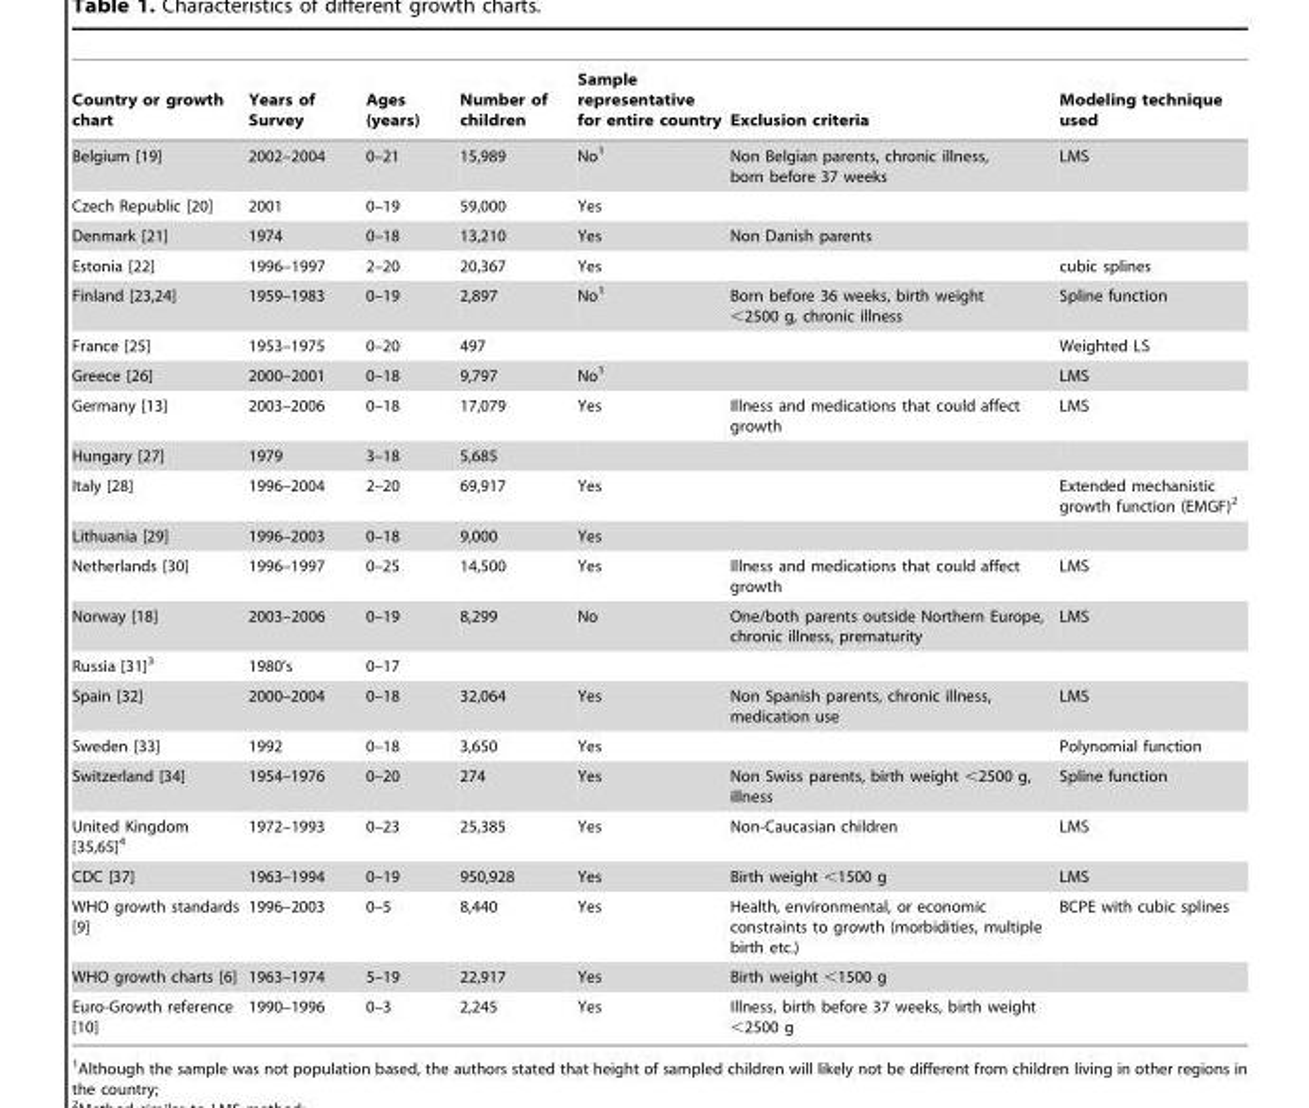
<table><thead><tr><td>Country or growth chart</td><td>Years of Survey</td><td>Ages (years)</td><td>Number of children</td><td>Sample representative for entire country</td><td>Exclusion criteria</td><td>Modeling technique used</td></tr></thead><tbody><tr><td>Belgium [19]</td><td>2002–2004</td><td>0–21</td><td>15,989</td><td>No<sup>1</sup></td><td>Non Belgian parents, chronic illness, born before 37 weeks</td><td>LMS</td></tr><tr><td>Czech Republic [20]</td><td>2001</td><td>0–19</td><td>59,000</td><td>Yes</td><td></td><td></td></tr><tr><td>Denmark [21]</td><td>1974</td><td>0–18</td><td>13,210</td><td>Yes</td><td>Non Danish parents</td><td></td></tr><tr><td>Estonia [22]</td><td>1996–1997</td><td>2–20</td><td>20,367</td><td>Yes</td><td></td><td>cubic splines</td></tr><tr><td>Finland [23,24]</td><td>1959–1983</td><td>0–19</td><td>2,897</td><td>No<sup>1</sup></td><td>Born before 36 weeks, birth weight &lt;2500 g, chronic illness</td><td>Spline function</td></tr><tr><td>France [25]</td><td>1953–1975</td><td>0–20</td><td>497</td><td></td><td></td><td>Weighted LS</td></tr><tr><td>Greece [26]</td><td>2000–2001</td><td>0–18</td><td>9,797</td><td>No<sup>1</sup></td><td></td><td>LMS</td></tr><tr><td>Germany [13]</td><td>2003–2006</td><td>0–18</td><td>17,079</td><td>Yes</td><td>Illness and medications that could affect growth</td><td>LMS</td></tr><tr><td>Hungary [27]</td><td>1979</td><td>3–18</td><td>5,685</td><td></td><td></td><td></td></tr><tr><td>Italy [28]</td><td>1996–2004</td><td>2–20</td><td>69,917</td><td>Yes</td><td></td><td>Extended mechanistic growth function (EMGF)<sup>2</sup></td></tr><tr><td>Lithuania [29]</td><td>1996–2003</td><td>0–18</td><td>9,000</td><td>Yes</td><td></td><td></td></tr><tr><td>Netherlands [30]</td><td>1996–1997</td><td>0–25</td><td>14,500</td><td>Yes</td><td>Illness and medications that could affect growth</td><td>LMS</td></tr><tr><td>Norway [18]</td><td>2003–2006</td><td>0–19</td><td>8,299</td><td>No</td><td>One/both parents outside Northern Europe, chronic illness, prematurity</td><td>LMS</td></tr><tr><td>Russia [31]3</td><td>1980’s</td><td>0–17</td><td></td><td></td><td></td><td></td></tr><tr><td>Spain [32]</td><td>2000–2004</td><td>0–18</td><td>32,064</td><td>Yes</td><td>Non Spanish parents, chronic illness, medication use</td><td>LMS</td></tr><tr><td>Sweden [33]</td><td>1992</td><td>0–18</td><td>3,650</td><td>Yes</td><td></td><td>Polynomial function</td></tr><tr><td>Switzerland [34]</td><td>1954–1976</td><td>0–20</td><td>274</td><td>Yes</td><td>Non Swiss parents, birth weight &lt;2500 g, illness</td><td>Spline function</td></tr><tr><td>United Kingdom [35,65]4</td><td>1972–1993</td><td>0–23</td><td>25,385</td><td>Yes</td><td>Non-Caucasian children</td><td>LMS</td></tr><tr><td>CDC [37]</td><td>1963–1994</td><td>0–19</td><td>950,928</td><td>Yes</td><td>Birth weight &lt;1500 g</td><td>LMS</td></tr><tr><td>WHO growth standards [9]</td><td>1996–2003</td><td>0–5</td><td>8,440</td><td>Yes</td><td>Health, environmental, or economic constraints to growth (morbidities, multiple birth etc.)</td><td>BCPE with cubic splines</td></tr><tr><td>WHO growth charts [6]</td><td>1963–1974</td><td>5–19</td><td>22,917</td><td>Yes</td><td>Birth weight &lt;1500 g</td><td></td></tr><tr><td>Euro-Growth reference [10]</td><td>1990–1996</td><td>0–3</td><td>2,245</td><td>Yes</td><td>Illness, birth before 37 weeks, birth weight &lt;2500 g</td><td></td></tr></tbody></table>